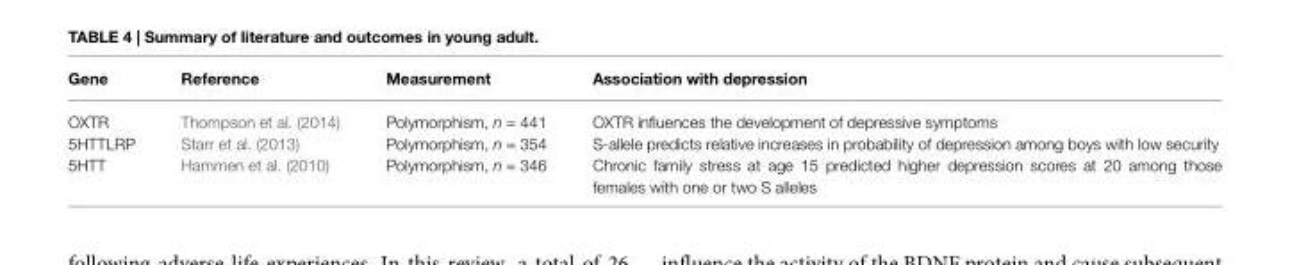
<table><thead><tr><td>Gene</td><td>Reference</td><td>Measurement</td><td>Association with depression</td></tr></thead><tbody><tr><td>OXTR</td><td>Thompson et al. (2014)</td><td>Polymorphism, n = 441</td><td>OXTR influences the development of depressive symptoms</td></tr><tr><td>5HTTLRP</td><td>Starr et al. (2013)</td><td>Polymorphism, n = 354</td><td>S-allele predicts relative increases in probability of depression among boys with low security</td></tr><tr><td>5HTT</td><td>Hammen et al. (2010)</td><td>Polymorphism, n = 346</td><td>Chronic family stress at age 15 predicted higher depression scores at 20 among those females with one or two S alleles</td></tr></tbody></table>